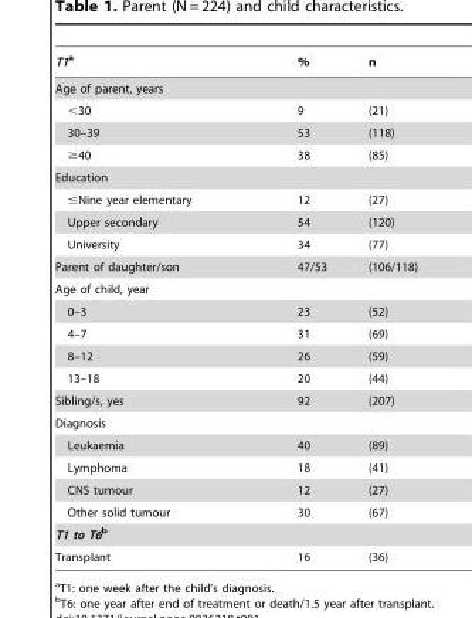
<table><thead><tr><td>T1a</td><td>%</td><td>n</td></tr></thead><tbody><tr><td colspan="3">Age of parent, years</td></tr><tr><td>&lt;30</td><td>9</td><td>(21)</td></tr><tr><td>30–39</td><td>53</td><td>(118)</td></tr><tr><td>≥40</td><td>38</td><td>(85)</td></tr><tr><td colspan="3">Education</td></tr><tr><td>≤Nine year elementary</td><td>12</td><td>(27)</td></tr><tr><td>Upper secondary</td><td>54</td><td>(120)</td></tr><tr><td>University</td><td>34</td><td>(77)</td></tr><tr><td>Parent of daughter/son</td><td>47/53</td><td>(106/118)</td></tr><tr><td colspan="3">Age of child, year</td></tr><tr><td>0–3</td><td>23</td><td>(52)</td></tr><tr><td>4–7</td><td>31</td><td>(69)</td></tr><tr><td>8–12</td><td>26</td><td>(59)</td></tr><tr><td>13–18</td><td>20</td><td>(44)</td></tr><tr><td>Sibling/s, yes</td><td>92</td><td>(207)</td></tr><tr><td colspan="3">Diagnosis</td></tr><tr><td>Leukaemia</td><td>40</td><td>(89)</td></tr><tr><td>Lymphoma</td><td>18</td><td>(41)</td></tr><tr><td>CNS tumour</td><td>12</td><td>(27)</td></tr><tr><td>Other solid tumour</td><td>30</td><td>(67)</td></tr><tr><td colspan="3">T1 to T6b</td></tr><tr><td>Transplant</td><td>16</td><td>(36)</td></tr></tbody></table>